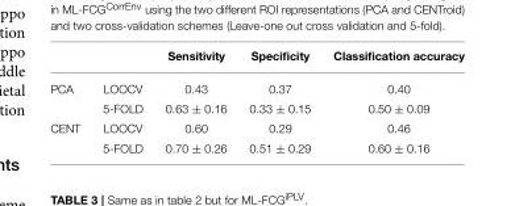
<table><thead><tr><td></td><td></td><td>Sensitivity</td><td>Specificity</td><td>Classification accuracy</td></tr></thead><tbody><tr><td rowspan="2">PCA</td><td>LOOCV</td><td>0.43</td><td>0.37</td><td>0.40</td></tr><tr><td>5-FOLD</td><td>0.63 ± 0.16</td><td>0.33 ± 0.15</td><td>0.50 ± 0.09</td></tr><tr><td rowspan="2">CENT</td><td>LOOCV</td><td>0.60</td><td>0.29</td><td>0.46</td></tr><tr><td>5-FOLD</td><td>0.70 ± 0.26</td><td>0.51 ± 0.29</td><td>0.60 ± 0.16</td></tr></tbody></table>